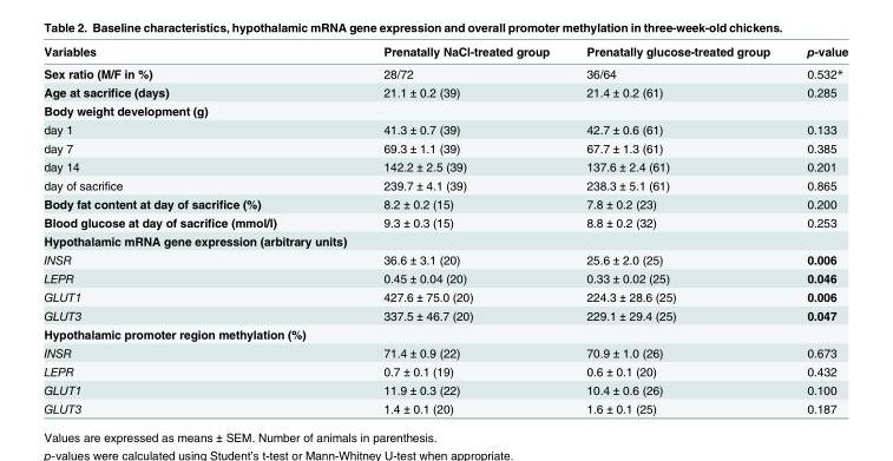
<table><thead><tr><td>Variables</td><td>Prenatally NaCl-treated group</td><td>Prenatally glucose-treated group</td><td>p-value</td></tr></thead><tbody><tr><td>Sex ratio (M/F in %)</td><td>28/72</td><td>36/64</td><td>0.532*</td></tr><tr><td>Age at sacrifice (days)</td><td>21.1 ± 0.2 (39)</td><td>21.4 ± 0.2 (61)</td><td>0.285</td></tr><tr><td colspan="4">Body weight development (g)</td></tr><tr><td>day 1</td><td>41.3 ± 0.7 (39)</td><td>42.7 ± 0.6 (61)</td><td>0.133</td></tr><tr><td>day 7</td><td>69.3 ± 1.1 (39)</td><td>67.7 ± 1.3 (61)</td><td>0.385</td></tr><tr><td>day 14</td><td>142.2 ± 2.5 (39)</td><td>137.6 ± 2.4 (61)</td><td>0.201</td></tr><tr><td>day of sacrifice</td><td>239.7 ± 4.1 (39)</td><td>238.3 ± 5.1 (61)</td><td>0.865</td></tr><tr><td>Body fat content at day of sacrifice (%)</td><td>8.2 ± 0.2 (15)</td><td>7.8 ± 0.2 (23)</td><td>0.200</td></tr><tr><td>Blood glucose at day of sacrifice (mmol/l)</td><td>9.3 ± 0.3 (15)</td><td>8.8 ± 0.2 (32)</td><td>0.253</td></tr><tr><td colspan="4">Hypothalamic mRNA gene expression (arbitrary units)</td></tr><tr><td>INSR</td><td>36.6 ± 3.1 (20)</td><td>25.6 ± 2.0 (25)</td><td>0.006</td></tr><tr><td>LEPR</td><td>0.45 ± 0.04 (20)</td><td>0.33 ± 0.02 (25)</td><td>0.046</td></tr><tr><td>GLUT1</td><td>427.6 ± 75.0 (20)</td><td>224.3 ± 28.6 (25)</td><td>0.006</td></tr><tr><td>GLUT3</td><td>337.5 ± 46.7 (20)</td><td>229.1 ± 29.4 (25)</td><td>0.047</td></tr><tr><td colspan="4">Hypothalamic promoter region methylation (%)</td></tr><tr><td>INSR</td><td>71.4 ± 0.9 (22)</td><td>70.9 ± 1.0 (26)</td><td>0.673</td></tr><tr><td>LEPR</td><td>0.7 ± 0.1 (19)</td><td>0.6 ± 0.1 (20)</td><td>0.432</td></tr><tr><td>GLUT1</td><td>11.9 ± 0.3 (22)</td><td>10.4 ± 0.6 (26)</td><td>0.100</td></tr><tr><td>GLUT3</td><td>1.4 ± 0.1 (20)</td><td>1.6 ± 0.1 (25)</td><td>0.187</td></tr></tbody></table>